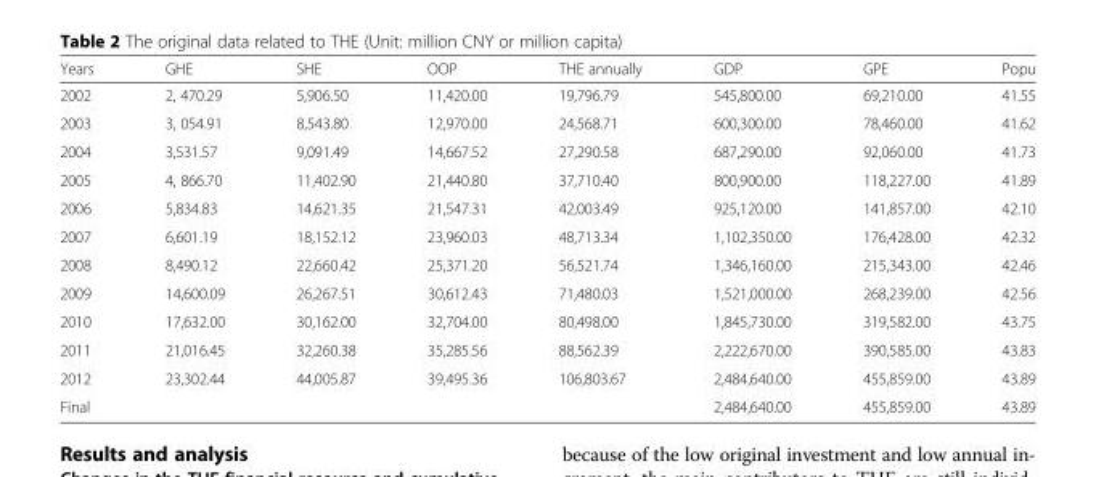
<table><thead><tr><td>Years</td><td>GHE</td><td>SHE</td><td>OOP</td><td>THE annually</td><td>GDP</td><td>GPE</td><td>Popu</td></tr></thead><tbody><tr><td>2002</td><td>2, 470.29</td><td>5,906.50</td><td>11,420.00</td><td>19,796.79</td><td>545,800.00</td><td>69,210.00</td><td>41.55</td></tr><tr><td>2003</td><td>3, 054.91</td><td>8,543.80</td><td>12,970.00</td><td>24,568.71</td><td>600,300.00</td><td>78,460.00</td><td>41.62</td></tr><tr><td>2004</td><td>3,531.57</td><td>9,091.49</td><td>14,667.52</td><td>27,290.58</td><td>687,290.00</td><td>92,060.00</td><td>41.73</td></tr><tr><td>2005</td><td>4, 866.70</td><td>11,402.90</td><td>21,440.80</td><td>37,710.40</td><td>800,900.00</td><td>118,227.00</td><td>41.89</td></tr><tr><td>2006</td><td>5,834.83</td><td>14,621.35</td><td>21,547.31</td><td>42,003.49</td><td>925,120.00</td><td>141,857.00</td><td>42.10</td></tr><tr><td>2007</td><td>6,601.19</td><td>18,152.12</td><td>23,960.03</td><td>48,713.34</td><td>1,102,350.00</td><td>176,428.00</td><td>42.32</td></tr><tr><td>2008</td><td>8,490.12</td><td>22,660.42</td><td>25,371.20</td><td>56,521.74</td><td>1,346,160.00</td><td>215,343.00</td><td>42.46</td></tr><tr><td>2009</td><td>14,600.09</td><td>26,267.51</td><td>30,612.43</td><td>71,480.03</td><td>1,521,000.00</td><td>268,239.00</td><td>42.56</td></tr><tr><td>2010</td><td>17,632.00</td><td>30,162.00</td><td>32,704.00</td><td>80,498.00</td><td>1,845,730.00</td><td>319,582.00</td><td>43.75</td></tr><tr><td>2011</td><td>21,016.45</td><td>32,260.38</td><td>35,285.56</td><td>88,562.39</td><td>2,222,670.00</td><td>390,585.00</td><td>43.83</td></tr><tr><td>2012</td><td>23,302.44</td><td>44,005.87</td><td>39,495.36</td><td>106,803.67</td><td>2,484,640.00</td><td>455,859.00</td><td>43.89</td></tr><tr><td>Final</td><td></td><td></td><td></td><td></td><td>2,484,640.00</td><td>455,859.00</td><td>43.89</td></tr></tbody></table>